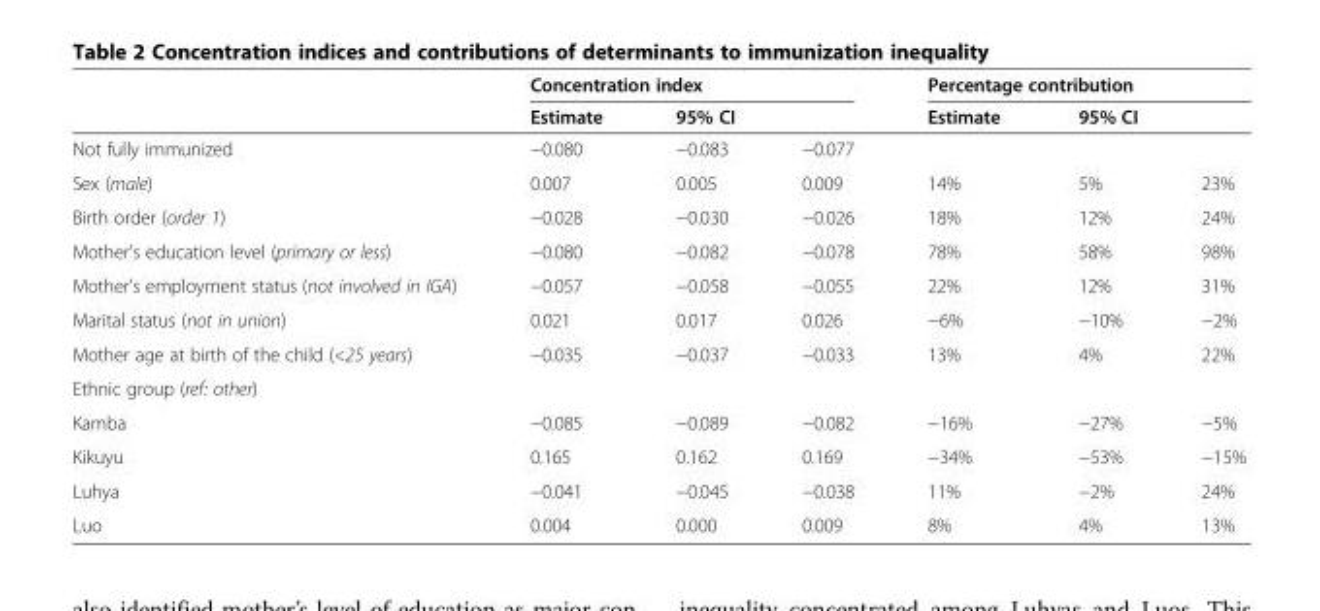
<table><thead><tr><td rowspan="3">Not fully immunized</td><td colspan="3">Concentration index</td><td colspan="3">Percentage contribution</td></tr><tr><td rowspan="2">Estimate −0.080</td><td colspan="2">95% CI</td><td rowspan="2">Estimate</td><td colspan="2">95% CI</td></tr><tr><td>−0.083</td><td>−0.077</td><td></td><td></td></tr></thead><tbody><tr><td>Sex (male)</td><td>0.007</td><td>0.005</td><td>0.009</td><td>14%</td><td>5%</td><td>23%</td></tr><tr><td>Birth order (order 1)</td><td>−0.028</td><td>−0.030</td><td>−0.026</td><td>18%</td><td>12%</td><td>24%</td></tr><tr><td>Mother&#x27;s education level (primary or less)</td><td>−0.080</td><td>−0.082</td><td>−0.078</td><td>78%</td><td>58%</td><td>98%</td></tr><tr><td>Mother&#x27;s employment status (not involved in IGA)</td><td>−0.057</td><td>−0.058</td><td>−0.055</td><td>22%</td><td>12%</td><td>31%</td></tr><tr><td>Marital status (not in union)</td><td>0.021</td><td>0.017</td><td>0.026</td><td>−6%</td><td>−10%</td><td>−2%</td></tr><tr><td>Mother age at birth of the child (&lt;25 years)</td><td>−0.035</td><td>−0.037</td><td>−0.033</td><td>13%</td><td>4%</td><td>22%</td></tr><tr><td colspan="7">Ethnic group (ref: other)</td></tr><tr><td>Kamba</td><td>−0.085</td><td>−0.089</td><td>−0.082</td><td>−16%</td><td>−27%</td><td>−5%</td></tr><tr><td>Kikuyu</td><td>0.165</td><td>0.162</td><td>0.169</td><td>−34%</td><td>−53%</td><td>−15%</td></tr><tr><td>Luhya</td><td>−0.041</td><td>−0.045</td><td>−0.038</td><td>11%</td><td>−2%</td><td>24%</td></tr><tr><td>Luo</td><td>0.004</td><td>0.000</td><td>0.009</td><td>8%</td><td>4%</td><td>13%</td></tr></tbody></table>